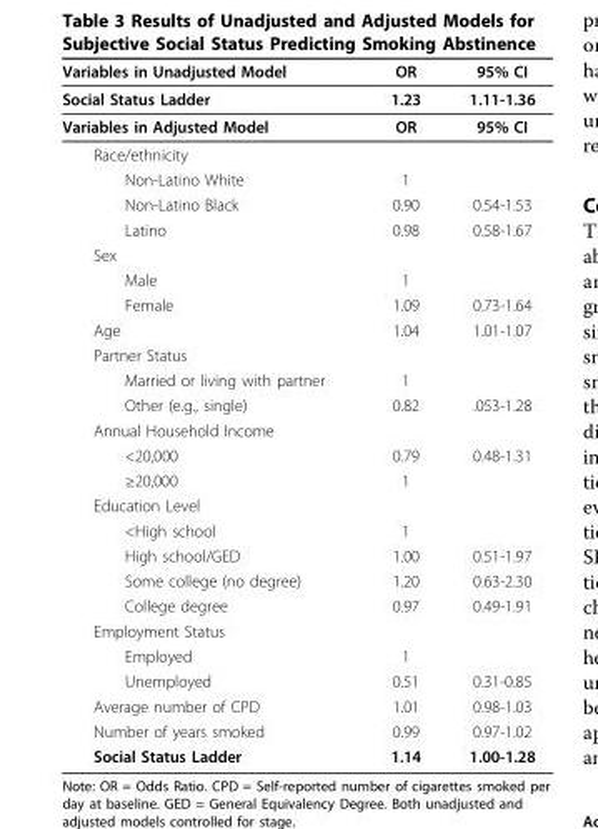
<table><thead><tr><td>Variables in Unadjusted Model</td><td>OR</td><td>95% CI</td></tr></thead><tbody><tr><td>Social Status Ladder</td><td>1.23</td><td>1.11-1.36</td></tr><tr><td>Variables in Adjusted Model</td><td>OR</td><td>95% CI</td></tr><tr><td colspan="3">Race/ethnicity</td></tr><tr><td>Non-Latino White</td><td>1</td><td></td></tr><tr><td>Non-Latino Black</td><td>0.90</td><td>0.54-1.53</td></tr><tr><td>Latino</td><td>0.98</td><td>0.58-1.67</td></tr><tr><td colspan="3">Sex</td></tr><tr><td>Male</td><td>1</td><td></td></tr><tr><td>Female</td><td>1.09</td><td>0.73-1.64</td></tr><tr><td>Age</td><td>1.04</td><td>1.01-1.07</td></tr><tr><td colspan="3">Partner Status</td></tr><tr><td>Married or living with partner</td><td>1</td><td></td></tr><tr><td>Other (e.g., single)</td><td>0.82</td><td>.053-1.28</td></tr><tr><td colspan="3">Annual Household Income</td></tr><tr><td>&lt;20,000</td><td>0.79</td><td>0.48-1.31</td></tr><tr><td>≥20,000</td><td>1</td><td></td></tr><tr><td colspan="3">Education Level</td></tr><tr><td>&lt;High school</td><td>1</td><td></td></tr><tr><td>High school/GED</td><td>1.00</td><td>0.51-1.97</td></tr><tr><td>Some college (no degree)</td><td>1.20</td><td>0.63-2.30</td></tr><tr><td>College degree</td><td>0.97</td><td>0.49-1.91</td></tr><tr><td colspan="3">Employment Status</td></tr><tr><td>Employed</td><td>1</td><td></td></tr><tr><td>Unemployed</td><td>0.51</td><td>0.31-0.85</td></tr><tr><td>Average number of CPD</td><td>1.01</td><td>0.98-1.03</td></tr><tr><td>Number of years smoked</td><td>0.99</td><td>0.97-1.02</td></tr><tr><td>Social Status Ladder</td><td>1.14</td><td>1.00-1.28</td></tr></tbody></table>